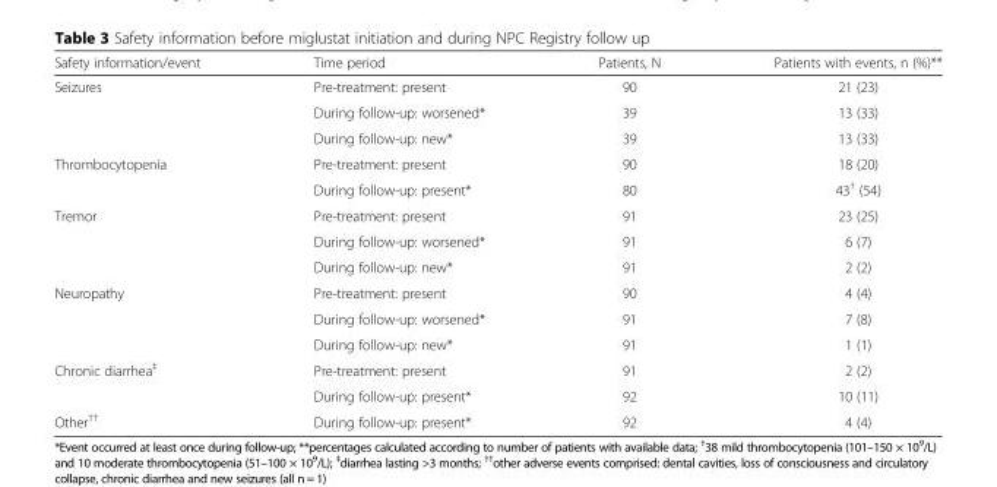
<table><thead><tr><td>Safety information/event</td><td>Time period</td><td>Patients, N</td><td>Patients with events, n (%)**</td></tr></thead><tbody><tr><td rowspan="3">Seizures</td><td>Pre-treatment: present</td><td>90</td><td>21 (23)</td></tr><tr><td>During follow-up: worsened*</td><td>39</td><td>13 (33)</td></tr><tr><td>During follow-up: new*</td><td>39</td><td>13 (33)</td></tr><tr><td rowspan="2">Thrombocytopenia</td><td>Pre-treatment: present</td><td>90</td><td>18 (20)</td></tr><tr><td>During follow-up: present*</td><td>80</td><td>43<sup>†</sup> (54)</td></tr><tr><td rowspan="3">Tremor</td><td>Pre-treatment: present</td><td>91</td><td>23 (25)</td></tr><tr><td>During follow-up: worsened*</td><td>91</td><td>6 (7)</td></tr><tr><td>During follow-up: new*</td><td>91</td><td>2 (2)</td></tr><tr><td rowspan="3">Neuropathy</td><td>Pre-treatment: present</td><td>90</td><td>4 (4)</td></tr><tr><td>During follow-up: worsened*</td><td>91</td><td>7 (8)</td></tr><tr><td>During follow-up: new*</td><td>91</td><td>1 (1)</td></tr><tr><td rowspan="2">Chronic diarrhea<sup>‡</sup></td><td>Pre-treatment: present</td><td>91</td><td>2 (2)</td></tr><tr><td>During follow-up: present*</td><td>92</td><td>10 (11)</td></tr><tr><td>Other<sup>††</sup></td><td>During follow-up: present*</td><td>92</td><td>4 (4)</td></tr></tbody></table>